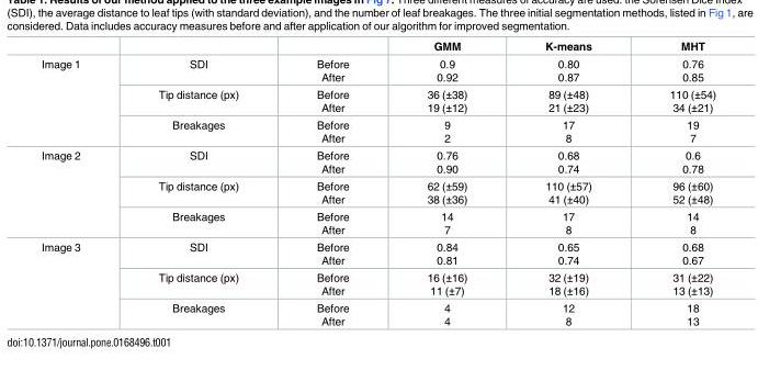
<table><thead><tr><td></td><td></td><td></td><td>GMM</td><td>K-means</td><td>MHT</td></tr></thead><tbody><tr><td rowspan="3">Image 1</td><td>SDI</td><td>Before After</td><td>0.9 0.92</td><td>0.80 0.87</td><td>0.76 0.85</td></tr><tr><td>Tip distance (px)</td><td>Before After</td><td>36 (±38) 19 (±12)</td><td>89 (±48) 21 (±23)</td><td>110 (±54) 34 (±21)</td></tr><tr><td>Breakages</td><td>Before After</td><td>9 2</td><td>17 8</td><td>19 7</td></tr><tr><td rowspan="3">Image 2</td><td>SDI</td><td>Before After</td><td>0.76 0.90</td><td>0.68 0.74</td><td>0.6 0.78</td></tr><tr><td>Tip distance (px)</td><td>Before After</td><td>62 (±59) 38 (±36)</td><td>110 (±57) 41 (±40)</td><td>96 (±60) 52 (±48)</td></tr><tr><td>Breakages</td><td>Before After</td><td>14 7</td><td>17 8</td><td>14 8</td></tr><tr><td rowspan="3">Image 3</td><td>SDI</td><td>Before After</td><td>0.84 0.81</td><td>0.65 0.74</td><td>0.68 0.67</td></tr><tr><td>Tip distance (px)</td><td>Before After</td><td>16 (±16) 11 (±7)</td><td>32 (±19) 18 (±16)</td><td>31 (±22) 13 (±13)</td></tr><tr><td>Breakages</td><td>Before After</td><td>4 4</td><td>12 8</td><td>18 13</td></tr></tbody></table>